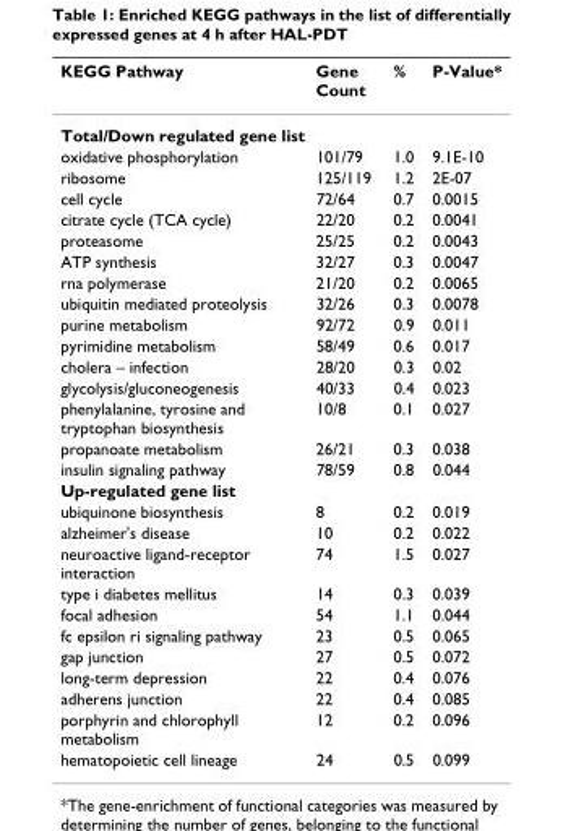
<table><thead><tr><td>KEGG Pathway</td><td>Gene Count</td><td>%</td><td>P-Value*</td></tr></thead><tbody><tr><td colspan="4">Total/Down regulated gene list</td></tr><tr><td>oxidative phosphorylation</td><td>101/79</td><td>1.0</td><td>9.1E-10</td></tr><tr><td>ribosome</td><td>125/119</td><td>1.2</td><td>2E-07</td></tr><tr><td>cell cycle</td><td>72/64</td><td>0.7</td><td>0.0015</td></tr><tr><td>citrate cycle (TCA cycle)</td><td>22/20</td><td>0.2</td><td>0.0041</td></tr><tr><td>proteasome</td><td>25/25</td><td>0.2</td><td>0.0043</td></tr><tr><td>ATP synthesis</td><td>32/27</td><td>0.3</td><td>0.0047</td></tr><tr><td>rna polymerase</td><td>21/20</td><td>0.2</td><td>0.0065</td></tr><tr><td>ubiquitin mediated proteolysis</td><td>32/26</td><td>0.3</td><td>0.0078</td></tr><tr><td>purine metabolism</td><td>92/72</td><td>0.9</td><td>0.011</td></tr><tr><td>pyrimidine metabolism</td><td>58/49</td><td>0.6</td><td>0.017</td></tr><tr><td>cholera – infection</td><td>28/20</td><td>0.3</td><td>0.02</td></tr><tr><td>glycolysis/gluconeogenesis</td><td>40/33</td><td>0.4</td><td>0.023</td></tr><tr><td>phenylalanine, tyrosine and tryptophan biosynthesis</td><td>10/8</td><td>0.1</td><td>0.027</td></tr><tr><td>propanoate metabolism</td><td>26/21</td><td>0.3</td><td>0.038</td></tr><tr><td>insulin signaling pathway</td><td>78/59</td><td>0.8</td><td>0.044</td></tr><tr><td colspan="4">Up-regulated gene list</td></tr><tr><td>ubiquinone biosynthesis</td><td>8</td><td>0.2</td><td>0.019</td></tr><tr><td>alzheimer&#x27;s disease</td><td>10</td><td>0.2</td><td>0.022</td></tr><tr><td>neuroactive ligand-receptor interaction</td><td>74</td><td>1.5</td><td>0.027</td></tr><tr><td>type i diabetes mellitus</td><td>14</td><td>0.3</td><td>0.039</td></tr><tr><td>focal adhesion</td><td>54</td><td>1.1</td><td>0.044</td></tr><tr><td>fc epsilon ri signaling pathway</td><td>23</td><td>0.5</td><td>0.065</td></tr><tr><td>gap junction</td><td>27</td><td>0.5</td><td>0.072</td></tr><tr><td>long-term depression</td><td>22</td><td>0.4</td><td>0.076</td></tr><tr><td>adherens junction</td><td>22</td><td>0.4</td><td>0.085</td></tr><tr><td>porphyrin and chlorophyll metabolism</td><td>12</td><td>0.2</td><td>0.096</td></tr><tr><td>hematopoietic cell lineage</td><td>24</td><td>0.5</td><td>0.099</td></tr></tbody></table>